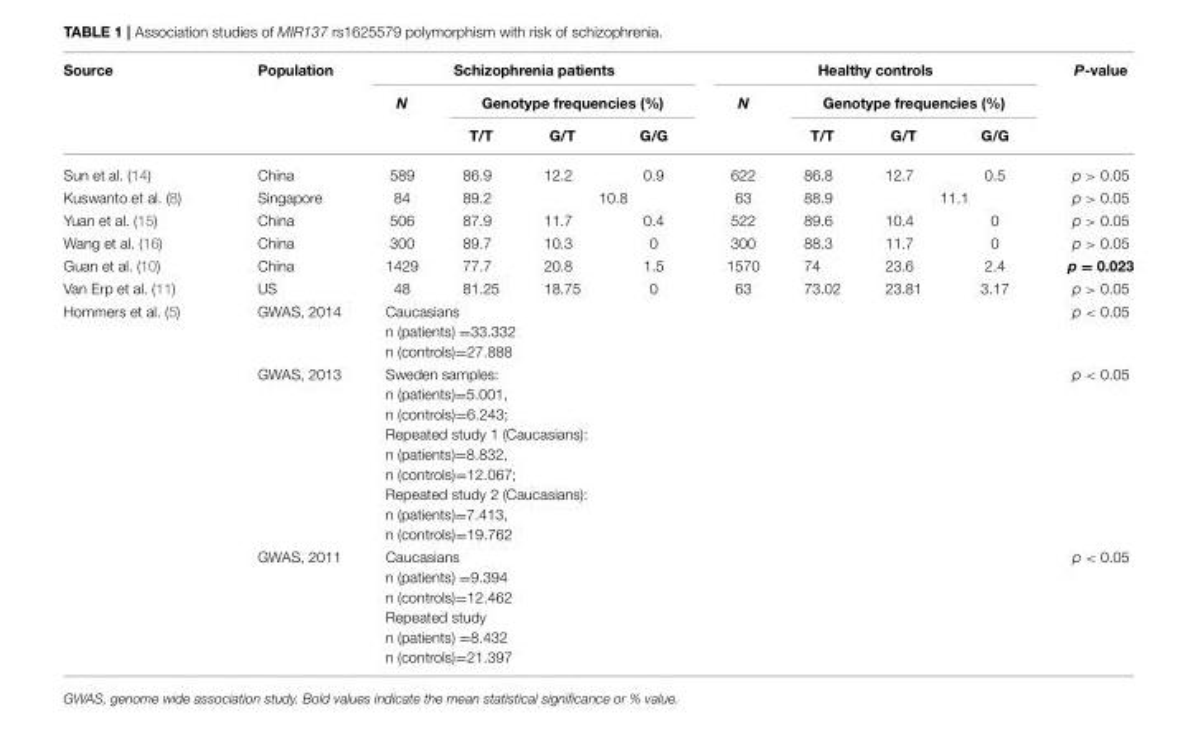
<table><thead><tr><td rowspan="3">Source</td><td rowspan="3">Population</td><td colspan="4">Schizophrenia patients</td><td colspan="4">Healthy controls</td><td rowspan="3">P-value</td></tr><tr><td rowspan="2">N</td><td colspan="3">Genotype frequencies (%)</td><td rowspan="2">N</td><td colspan="3">Genotype frequencies (%)</td></tr><tr><td>T/T</td><td>G/T</td><td>G/G</td><td>T/T</td><td>G/T</td><td>G/G</td></tr></thead><tbody><tr><td>Sun et al. (14)</td><td>China</td><td>589</td><td>86.9</td><td>12.2</td><td>0.9</td><td>622</td><td>86.8</td><td>12.7</td><td>0.5</td><td>p &gt; 0.05</td></tr><tr><td>Kuswanto et al. (8)</td><td>Singapore</td><td>84</td><td>89.2</td><td colspan="2">10.8</td><td>63</td><td>88.9</td><td colspan="2">11.1</td><td>p &gt; 0.05</td></tr><tr><td>Yuan et al. (15)</td><td>China</td><td>506</td><td>87.9</td><td>11.7</td><td>0.4</td><td>522</td><td>89.6</td><td>10.4</td><td>0</td><td>p &gt; 0.05</td></tr><tr><td>Wang et al. (16)</td><td>China</td><td>300</td><td>89.7</td><td>10.3</td><td>0</td><td>300</td><td>88.3</td><td>11.7</td><td>0</td><td>p &gt; 0.05</td></tr><tr><td>Guan et al. (10)</td><td>China</td><td>1429</td><td>77.7</td><td>20.8</td><td>1.5</td><td>1570</td><td>74</td><td>23.6</td><td>2.4</td><td>p = 0.023</td></tr><tr><td>Van Erp et al. (11)</td><td>US</td><td>48</td><td>81.25</td><td>18.75</td><td>0</td><td>63</td><td>73.02</td><td>23.81</td><td>3.17</td><td>p &gt; 0.05</td></tr><tr><td rowspan="3">Hommers et al. (5)</td><td>GWAS, 2014</td><td colspan="8">Caucasians n (patients) =33.332 n (controls)=27.888</td><td>p &lt; 0.05</td></tr><tr><td>GWAS, 2013</td><td colspan="8">Sweden samples: n (patients)=5.001, n (controls)=6.243; Repeated study 1 (Caucasians): n (patients)=8.832, n (controls)=12.067; Repeated study 2 (Caucasians): n (patients)=7.413, n (controls)=19.762</td><td>p &lt; 0.05</td></tr><tr><td>GWAS, 2011</td><td colspan="8">Caucasians n (patients) =9.394 n (controls)=12.462 Repeated study n (patients) =8.432 n (controls)=21.397</td><td>p &lt; 0.05</td></tr></tbody></table>